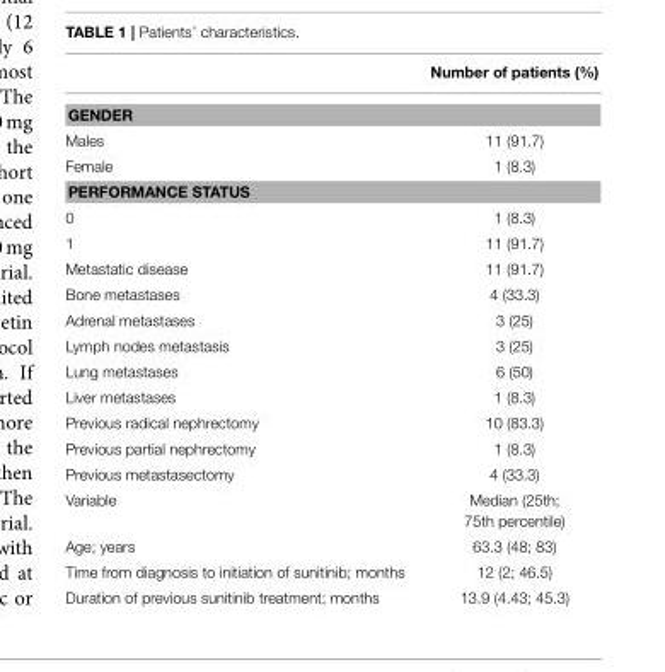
<table><thead><tr><td></td><td>Number of patients (%)</td></tr></thead><tbody><tr><td colspan="2">GENDER</td></tr><tr><td>Males</td><td>11 (91.7)</td></tr><tr><td>Female</td><td>1 (8.3)</td></tr><tr><td colspan="2">PERFORMANCE STATUS</td></tr><tr><td>0</td><td>1 (8.3)</td></tr><tr><td>1</td><td>11 (91.7)</td></tr><tr><td>Metastatic disease</td><td>11 (91.7)</td></tr><tr><td>Bone metastases</td><td>4 (33.3)</td></tr><tr><td>Adrenal metastases</td><td>3 (25)</td></tr><tr><td>Lymph nodes metastasis</td><td>3 (25)</td></tr><tr><td>Lung metastases</td><td>6 (50)</td></tr><tr><td>Liver metastases</td><td>1 (8.3)</td></tr><tr><td>Previous radical nephrectomy</td><td>10 (83.3)</td></tr><tr><td>Previous partial nephrectomy</td><td>1 (8.3)</td></tr><tr><td>Previous metastasectomy</td><td>4 (33.3)</td></tr><tr><td>Variable</td><td>Median (25th; 75th percentile)</td></tr><tr><td>Age; years</td><td>63.3 (48; 83)</td></tr><tr><td>Time from diagnosis to initiation of sunitinib; months</td><td>12 (2; 46.5)</td></tr><tr><td>Duration of previous sunitinib treatment; months</td><td>13.9 (4.43; 45.3)</td></tr></tbody></table>